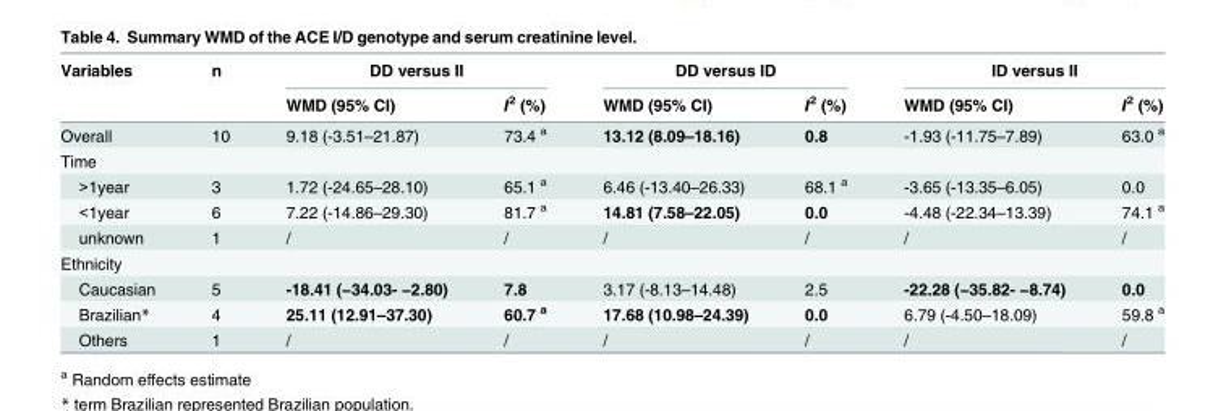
<table><thead><tr><td rowspan="2">Variables</td><td rowspan="2">n</td><td colspan="2">DD versus II</td><td colspan="2">DD versus ID</td><td colspan="2">ID versus II</td></tr><tr><td>WMD (95% CI)</td><td>I<sup>2</sup> (%)</td><td>WMD (95% CI)</td><td>I<sup>2</sup> (%)</td><td>WMD (95% CI)</td><td>I<sup>2</sup> (%)</td></tr></thead><tbody><tr><td>Overall</td><td>10</td><td>9.18 (-3.51–21.87)</td><td>73.4 <sup>a</sup></td><td>13.12 (8.09–18.16)</td><td>0.8</td><td>-1.93 (-11.75–7.89)</td><td>63.0 <sup>a</sup></td></tr><tr><td colspan="8">Time</td></tr><tr><td>&gt;1year</td><td>3</td><td>1.72 (-24.65–28.10)</td><td>65.1 <sup>a</sup></td><td>6.46 (-13.40–26.33)</td><td>68.1 <sup>a</sup></td><td>-3.65 (-13.35–6.05)</td><td>0.0</td></tr><tr><td>&lt;1year</td><td>6</td><td>7.22 (-14.86–29.30)</td><td>81.7 <sup>a</sup></td><td>14.81 (7.58–22.05)</td><td>0.0</td><td>-4.48 (-22.34–13.39)</td><td>74.1 <sup>a</sup></td></tr><tr><td>unknown</td><td>1</td><td>/</td><td>/</td><td>/</td><td>/</td><td>/</td><td>/</td></tr><tr><td colspan="8">Ethnicity</td></tr><tr><td>Caucasian</td><td>5</td><td>-18.41 (−34.03- −2.80)</td><td>7.8</td><td>3.17 (-8.13–14.48)</td><td>2.5</td><td>-22.28 (−35.82- −8.74)</td><td>0.0</td></tr><tr><td>Brazilian*</td><td>4</td><td>25.11 (12.91–37.30)</td><td>60.7 <sup>a</sup></td><td>17.68 (10.98–24.39)</td><td>0.0</td><td>6.79 (-4.50–18.09)</td><td>59.8 <sup>a</sup></td></tr><tr><td>Others</td><td>1</td><td>/</td><td>/</td><td>/</td><td>/</td><td>/</td><td>/</td></tr></tbody></table>